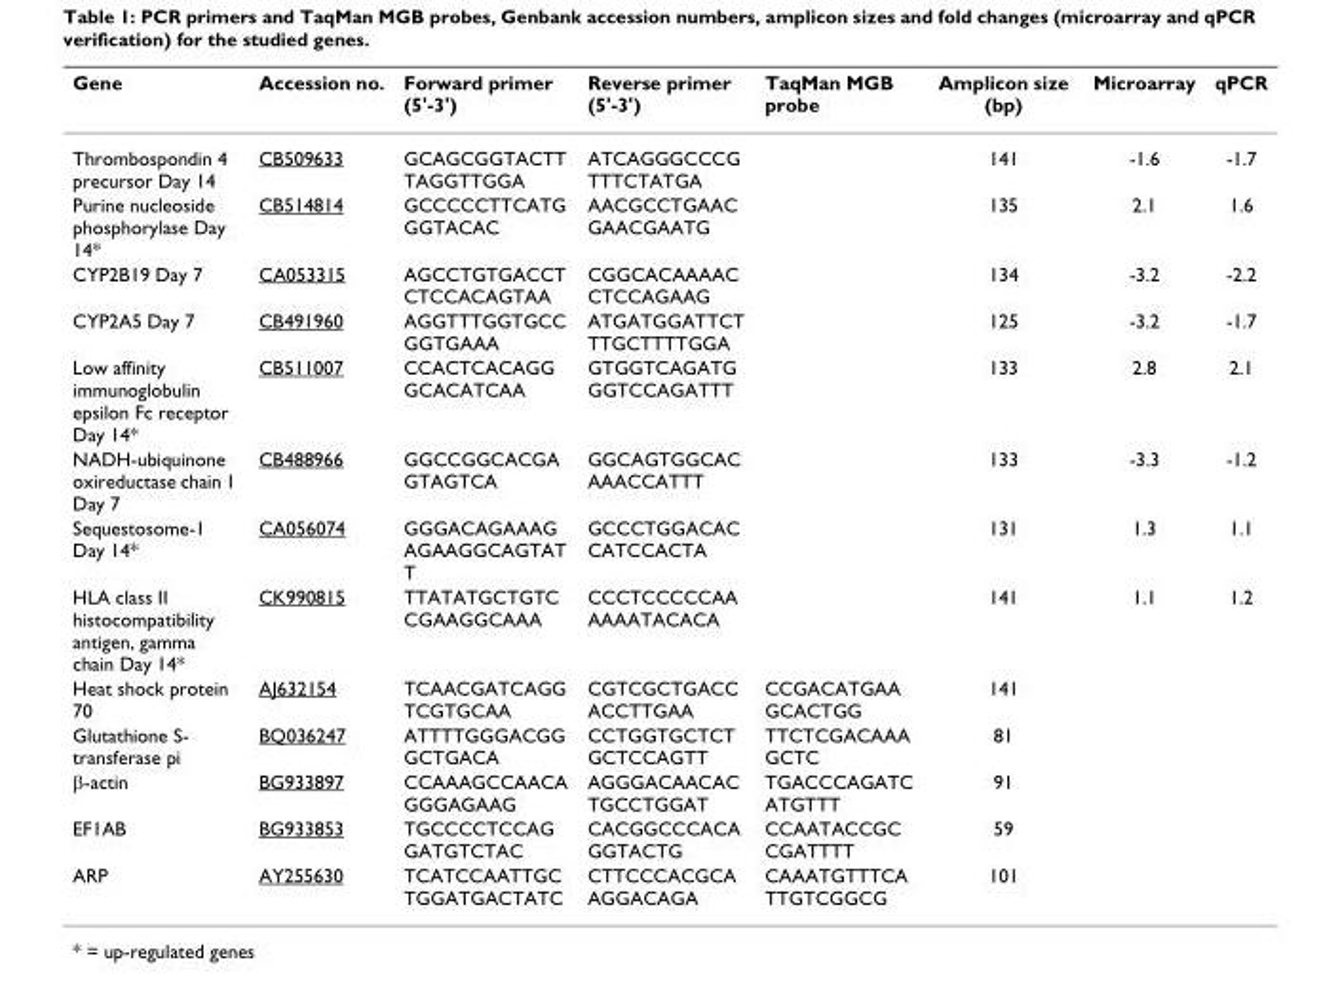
<table><thead><tr><td>Gene</td><td>Accession no.</td><td>Forward primer (5&#x27;-3&#x27;)</td><td>Reverse primer (5&#x27;-3&#x27;)</td><td>TaqMan MGB probe</td><td>Amplicon size (bp)</td><td>Microarray</td><td>qPCR</td></tr></thead><tbody><tr><td>Thrombospondin 4 precursor Day 14</td><td>CB509633</td><td>GCAGCGGTACTT TAGGTTGGA</td><td>ATCAGGGCCCG TTTCTATGA</td><td></td><td>141</td><td>-1.6</td><td>-1.7</td></tr><tr><td>Purine nucleoside phosphorylase Day 14*</td><td>CB514814</td><td>GCCCCCTTCATG GGTACAC</td><td>AACGCCTGAAC GAACGAATG</td><td></td><td>135</td><td>2.1</td><td>1.6</td></tr><tr><td>CYP2B19 Day 7</td><td>CA053315</td><td>AGCCTGTGACCT CTCCACAGTAA</td><td>CGGCACAAAAC CTCCAGAAG</td><td></td><td>134</td><td>-3.2</td><td>-2.2</td></tr><tr><td>CYP2A5 Day 7</td><td>CB491960</td><td>AGGTTTGGTGCC GGTGAAA</td><td>ATGATGGATTCT TTGCTTTTGGA</td><td></td><td>125</td><td>-3.2</td><td>-1.7</td></tr><tr><td>Low affinity immunoglobulin epsilon Fc receptor Day 14*</td><td>CB511007</td><td>CCACTCACAGG GCACATCAA</td><td>GTGGTCAGATG GGTCCAGATTT</td><td></td><td>133</td><td>2.8</td><td>2.1</td></tr><tr><td>NADH-ubiquinone oxireductase chain 1 Day 7</td><td>CB488966</td><td>GGCCGGCACGA GTAGTCA</td><td>GGCAGTGGCAC AAACCATTT</td><td></td><td>133</td><td>-3.3</td><td>-1.2</td></tr><tr><td>Sequestosome-1 Day 14*</td><td>CA056074</td><td>GGGACAGAAAG AGAAGGCAGTAT T</td><td>GCCCTGGACAC CATCCACTA</td><td></td><td>131</td><td>1.3</td><td>1.1</td></tr><tr><td>HLA class II histocompatibility antigen, gamma chain Day 14*</td><td>CK990815</td><td>TTATATGCTGTC CGAAGGCAAA</td><td>CCCTCCCCCAA AAAATACACA</td><td></td><td>141</td><td>1.1</td><td>1.2</td></tr><tr><td>Heat shock protein 70</td><td>AJ632154</td><td>TCAACGATCAGG TCGTGCAA</td><td>CGTCGCTGACC ACCTTGAA</td><td>CCGACATGAA GCACTGG</td><td>141</td><td></td><td></td></tr><tr><td>Glutathione S- transferase pi</td><td>BQ036247</td><td>ATTTTGGGACGG GCTGACA</td><td>CCTGGTGCTCT GCTCCAGTT</td><td>TTCTCGACAAA GCTC</td><td>81</td><td></td><td></td></tr><tr><td>β-actin</td><td>BG933897</td><td>CCAAAGCCAACA GGGAGAAG</td><td>AGGGACAACAC TGCCTGGAT</td><td>TGACCCAGATC ATGTTT</td><td>91</td><td></td><td></td></tr><tr><td>EF1AB</td><td>BG933853</td><td>TGCCCCTCCAG GATGTCTAC</td><td>CACGGCCCACA GGTACTG</td><td>CCAATACCGC CGATTTT</td><td>59</td><td></td><td></td></tr><tr><td>ARP</td><td>AY255630</td><td>TCATCCAATTGC TGGATGACTATC</td><td>CTTCCCACGCA AGGACAGA</td><td>CAAATGTTTCA TTGTCGGCG</td><td>101</td><td></td><td></td></tr></tbody></table>